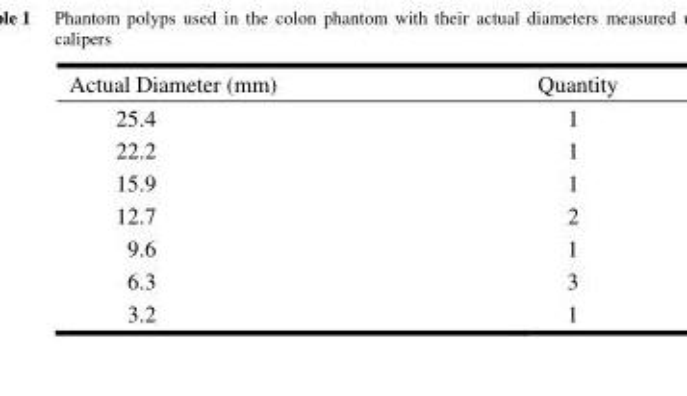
<table><thead><tr><td>Actual Diameter (mm)</td><td>Quantity</td></tr></thead><tbody><tr><td>25.4</td><td>1</td></tr><tr><td>22.2</td><td>1</td></tr><tr><td>15.9</td><td>1</td></tr><tr><td>12.7</td><td>2</td></tr><tr><td>9.6</td><td>1</td></tr><tr><td>6.3</td><td>3</td></tr><tr><td>3.2</td><td>1</td></tr></tbody></table>